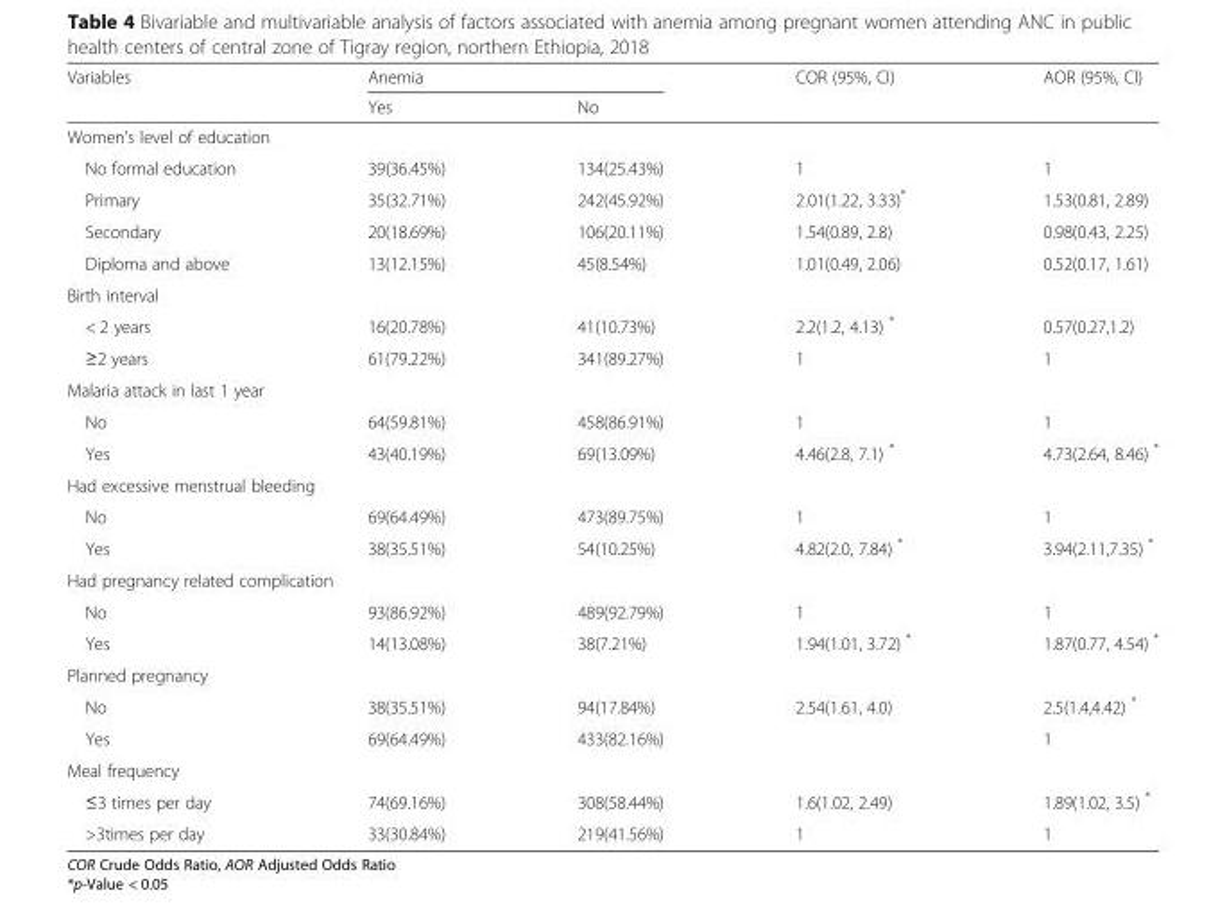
<table><thead><tr><td rowspan="2">Variables</td><td colspan="2">Anemia</td><td rowspan="2">COR (95%, CI)</td><td rowspan="2">AOR (95%, CI)</td></tr><tr><td>Yes</td><td>No</td></tr></thead><tbody><tr><td colspan="5">Women’s level of education</td></tr><tr><td>No formal education</td><td>39(36.45%)</td><td>134(25.43%)</td><td>1</td><td>1</td></tr><tr><td>Primary</td><td>35(32.71%)</td><td>242(45.92%)</td><td>2.01(1.22, 3.33)*</td><td>1.53(0.81, 2.89)</td></tr><tr><td>Secondary</td><td>20(18.69%)</td><td>106(20.11%)</td><td>1.54(0.89, 2.8)</td><td>0.98(0.43, 2.25)</td></tr><tr><td>Diploma and above</td><td>13(12.15%)</td><td>45(8.54%)</td><td>1.01(0.49, 2.06)</td><td>0.52(0.17, 1.61)</td></tr><tr><td colspan="5">Birth interval</td></tr><tr><td>&lt; 2 years</td><td>16(20.78%)</td><td>41(10.73%)</td><td>2.2(1.2, 4.13) *</td><td>0.57(0.27,1.2)</td></tr><tr><td>≥2 years</td><td>61(79.22%)</td><td>341(89.27%)</td><td>1</td><td>1</td></tr><tr><td colspan="5">Malaria attack in last 1 year</td></tr><tr><td>No</td><td>64(59.81%)</td><td>458(86.91%)</td><td>1</td><td>1</td></tr><tr><td>Yes</td><td>43(40.19%)</td><td>69(13.09%)</td><td>4.46(2.8, 7.1) *</td><td>4.73(2.64, 8.46) *</td></tr><tr><td colspan="5">Had excessive menstrual bleeding</td></tr><tr><td>No</td><td>69(64.49%)</td><td>473(89.75%)</td><td>1</td><td>1</td></tr><tr><td>Yes</td><td>38(35.51%)</td><td>54(10.25%)</td><td>4.82(2.0, 7.84) *</td><td>3.94(2.11,7.35) *</td></tr><tr><td colspan="5">Had pregnancy related complication</td></tr><tr><td>No</td><td>93(86.92%)</td><td>489(92.79%)</td><td>1</td><td>1</td></tr><tr><td>Yes</td><td>14(13.08%)</td><td>38(7.21%)</td><td>1.94(1.01, 3.72) *</td><td>1.87(0.77, 4.54) *</td></tr><tr><td colspan="5">Planned pregnancy</td></tr><tr><td>No</td><td>38(35.51%)</td><td>94(17.84%)</td><td>2.54(1.61, 4.0)</td><td>2.5(1.4,4.42) *</td></tr><tr><td>Yes</td><td>69(64.49%)</td><td>433(82.16%)</td><td></td><td>1</td></tr><tr><td colspan="5">Meal frequency</td></tr><tr><td>≤3 times per day</td><td>74(69.16%)</td><td>308(58.44%)</td><td>1.6(1.02, 2.49)</td><td>1.89(1.02, 3.5) *</td></tr><tr><td>&gt;3times per day</td><td>33(30.84%)</td><td>219(41.56%)</td><td>1</td><td>1</td></tr></tbody></table>